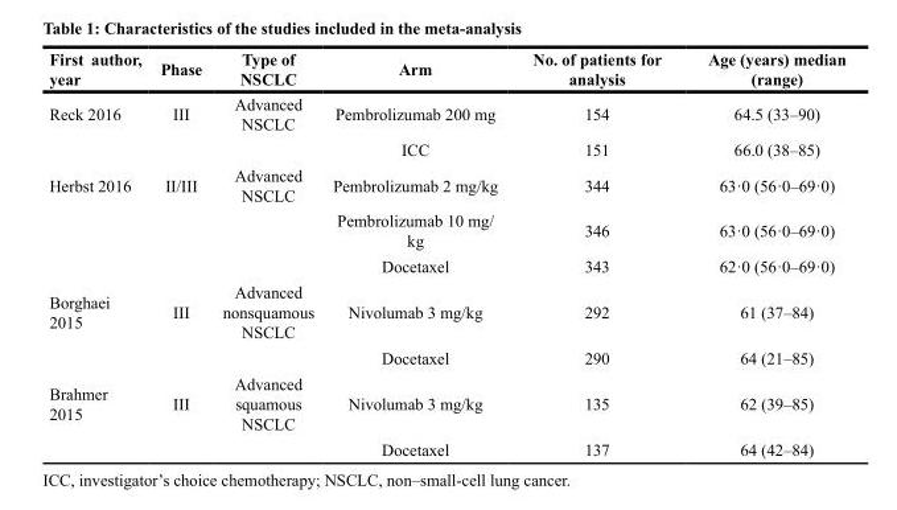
<table><thead><tr><td>First author, year</td><td>Phase</td><td>Type of NSCLC</td><td>Arm</td><td>No. of patients for analysis</td><td>Age (years) median (range)</td></tr></thead><tbody><tr><td rowspan="2">Reck 2016</td><td>III</td><td>Advanced NSCLC</td><td>Pembrolizumab 200 mg</td><td>154</td><td>64.5 (33–90)</td></tr><tr><td></td><td></td><td>ICC</td><td>151</td><td>66.0 (38–85)</td></tr><tr><td rowspan="3">Herbst 2016</td><td>II/III</td><td>Advanced NSCLC</td><td>Pembrolizumab 2 mg/kg</td><td>344</td><td>63·0 (56·0–69·0)</td></tr><tr><td></td><td></td><td>Pembrolizumab 10 mg/ kg</td><td>346</td><td>63·0 (56·0–69·0)</td></tr><tr><td></td><td></td><td>Docetaxel</td><td>343</td><td>62·0 (56·0–69·0)</td></tr><tr><td rowspan="2">Borghaei 2015</td><td>III</td><td>Advanced nonsquamous NSCLC</td><td>Nivolumab 3 mg/kg</td><td>292</td><td>61 (37–84)</td></tr><tr><td></td><td></td><td>Docetaxel</td><td>290</td><td>64 (21–85)</td></tr><tr><td rowspan="2">Brahmer 2015</td><td>III</td><td>Advanced squamous NSCLC</td><td>Nivolumab 3 mg/kg</td><td>135</td><td>62 (39–85)</td></tr><tr><td></td><td></td><td>Docetaxel</td><td>137</td><td>64 (42–84)</td></tr></tbody></table>